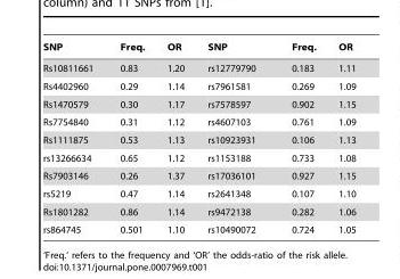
<table><thead><tr><td>SNP</td><td>Freq.</td><td>OR</td><td>SNP</td><td>Freq.</td><td>OR</td></tr></thead><tbody><tr><td>Rs10811661</td><td>0.83</td><td>1.20</td><td>rs12779790</td><td>0.183</td><td>1.11</td></tr><tr><td>Rs4402960</td><td>0.29</td><td>1.14</td><td>rs7961581</td><td>0.269</td><td>1.09</td></tr><tr><td>Rs1470579</td><td>0.30</td><td>1.17</td><td>rs7578597</td><td>0.902</td><td>1.15</td></tr><tr><td>Rs7754840</td><td>0.31</td><td>1.12</td><td>rs4607103</td><td>0.761</td><td>1.09</td></tr><tr><td>Rs1111875</td><td>0.53</td><td>1.13</td><td>rs10923931</td><td>0.106</td><td>1.13</td></tr><tr><td>rs13266634</td><td>0.65</td><td>1.12</td><td>rs1153188</td><td>0.733</td><td>1.08</td></tr><tr><td>Rs7903146</td><td>0.26</td><td>1.37</td><td>rs17036101</td><td>0.927</td><td>1.15</td></tr><tr><td>rs5219</td><td>0.47</td><td>1.14</td><td>rs2641348</td><td>0.107</td><td>1.10</td></tr><tr><td>Rs1801282</td><td>0.86</td><td>1.14</td><td>rs9472138</td><td>0.282</td><td>1.06</td></tr><tr><td>rs864745</td><td>0.501</td><td>1.10</td><td>rs10490072</td><td>0.724</td><td>1.05</td></tr></tbody></table>